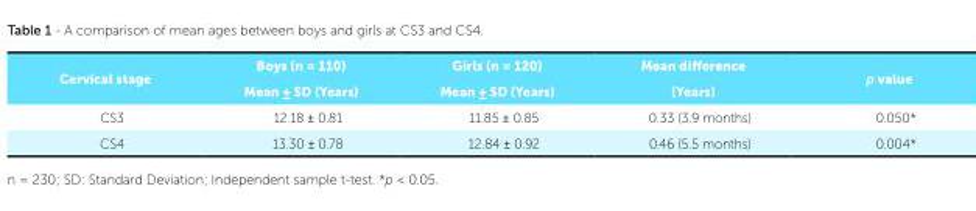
<table><tbody><tr><td rowspan="2">Cervical stage</td><td>Boys (n = 110)</td><td>Girls (n = 120)</td><td>Mean difference</td><td rowspan="2">p value</td></tr><tr><td>Mean ± SD (Years)</td><td>Mean ± SD (Years)</td><td>(Years)</td></tr><tr><td>CS3</td><td>12.18 ± 0.81</td><td>11.85 ± 0.85</td><td>0.33 (3.9 months)</td><td>0.050*</td></tr><tr><td>CS4</td><td>13.30 ± 0.78</td><td>12.84 ± 0.92</td><td>0.46 (5.5 months)</td><td>0.004*</td></tr></tbody></table>